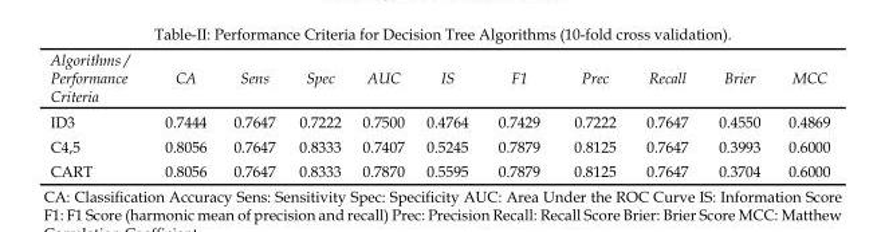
<table><thead><tr><td>Algorithms / Performance Criteria</td><td>CA</td><td>Sens</td><td>Spec</td><td>AUC</td><td>IS</td><td>F1</td><td>Prec</td><td>Recall</td><td>Brier</td><td>MCC</td></tr></thead><tbody><tr><td>ID3</td><td>0.7444</td><td>0.7647</td><td>0.7222</td><td>0.7500</td><td>0.4764</td><td>0.7429</td><td>0.7222</td><td>0.7647</td><td>0.4550</td><td>0.4869</td></tr><tr><td>C4,5</td><td>0.8056</td><td>0.7647</td><td>0.8333</td><td>0.7407</td><td>0.5245</td><td>0.7879</td><td>0.8125</td><td>0.7647</td><td>0.3993</td><td>0.6000</td></tr><tr><td>CART</td><td>0.8056</td><td>0.7647</td><td>0.8333</td><td>0.7870</td><td>0.5595</td><td>0.7879</td><td>0.8125</td><td>0.7647</td><td>0.3704</td><td>0.6000</td></tr></tbody></table>